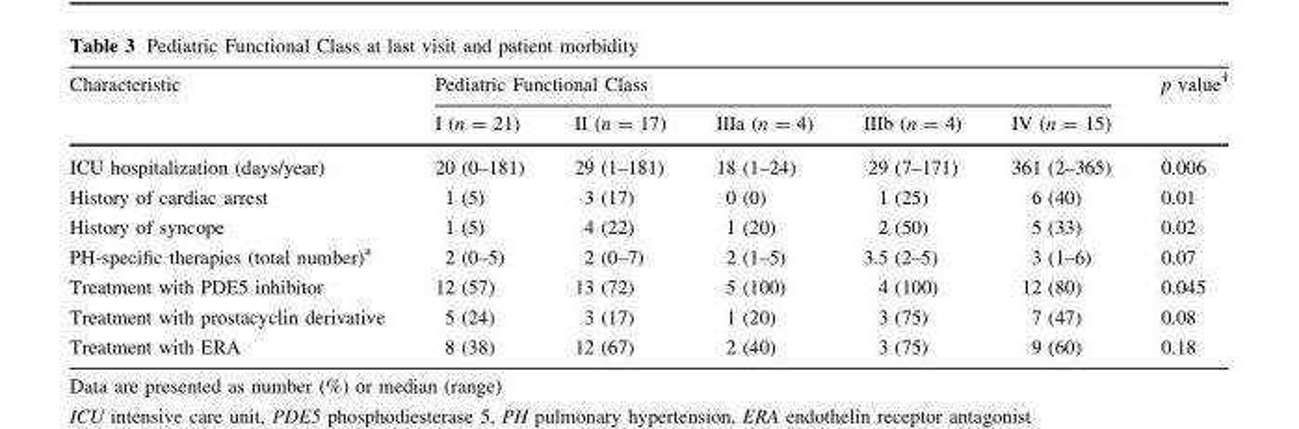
<table><thead><tr><td rowspan="2">Characteristic</td><td colspan="5">Pediatric Functional Class</td><td rowspan="2">p value<sup>†</sup></td></tr><tr><td>I (n = 21)</td><td>II (n = 17)</td><td>IIIa (n = 4)</td><td>IIIb (n = 4)</td><td>IV (n = 15)</td></tr></thead><tbody><tr><td>ICU hospitalization (days/year)</td><td>20 (0–181)</td><td>29 (1–181)</td><td>18 (1–24)</td><td>29 (7–171)</td><td>361 (2–365)</td><td>0.006</td></tr><tr><td>History of cardiac arrest</td><td>1 (5)</td><td>3 (17)</td><td>0 (0)</td><td>1 (25)</td><td>6 (40)</td><td>0.01</td></tr><tr><td>History of syncope</td><td>1 (5)</td><td>4 (22)</td><td>1 (20)</td><td>2 (50)</td><td>5 (33)</td><td>0.02</td></tr><tr><td>PH-specific therapies (total number)<sup>a</sup></td><td>2 (0–5)</td><td>2 (0–7)</td><td>2 (1–5)</td><td>3.5 (2–5)</td><td>3 (1–6)</td><td>0.07</td></tr><tr><td>Treatment with PDE5 inhibitor</td><td>12 (57)</td><td>13 (72)</td><td>5 (100)</td><td>4 (100)</td><td>12 (80)</td><td>0.045</td></tr><tr><td>Treatment with prostacyclin derivative</td><td>5 (24)</td><td>3 (17)</td><td>1 (20)</td><td>3 (75)</td><td>7 (47)</td><td>0.08</td></tr><tr><td>Treatment with ERA</td><td>8 (38)</td><td>12 (67)</td><td>2 (40)</td><td>3 (75)</td><td>9 (60)</td><td>0.18</td></tr></tbody></table>